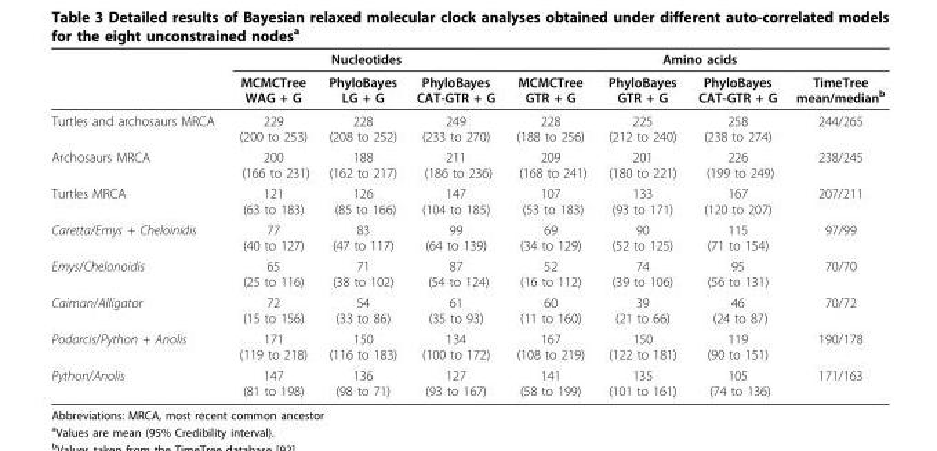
<table><thead><tr><td rowspan="2"></td><td colspan="3">Nucleotides</td><td colspan="4">Amino acids</td></tr><tr><td>MCMCTree WAG + G</td><td>PhyloBayes LG + G</td><td>PhyloBayes CAT-GTR + G</td><td>MCMCTree GTR + G</td><td>PhyloBayes GTR + G</td><td>PhyloBayes CAT-GTR + G</td><td>TimeTree mean/median<sup>b</sup></td></tr></thead><tbody><tr><td>Turtles and archosaurs MRCA</td><td>229 (200 to 253)</td><td>228 (208 to 252)</td><td>249 (233 to 270)</td><td>228 (188 to 256)</td><td>225 (212 to 240)</td><td>258 (238 to 274)</td><td>244/265</td></tr><tr><td>Archosaurs MRCA</td><td>200 (166 to 231)</td><td>188 (162 to 217)</td><td>211 (186 to 236)</td><td>209 (168 to 241)</td><td>201 (180 to 221)</td><td>226 (199 to 249)</td><td>238/245</td></tr><tr><td>Turtles MRCA</td><td>121 (63 to 183)</td><td>126 (85 to 166)</td><td>147 (104 to 185)</td><td>107 (53 to 183)</td><td>133 (93 to 171)</td><td>167 (120 to 207)</td><td>207/211</td></tr><tr><td>Caretta/Emys + Cheloinidis</td><td>77 (40 to 127)</td><td>83 (47 to 117)</td><td>99 (64 to 139)</td><td>69 (34 to 129)</td><td>90 (52 to 125)</td><td>115 (71 to 154)</td><td>97/99</td></tr><tr><td>Emys/Chelonoidis</td><td>65 (25 to 116)</td><td>71 (38 to 102)</td><td>87 (54 to 124)</td><td>52 (16 to 112)</td><td>74 (39 to 106)</td><td>95 (56 to 131)</td><td>70/70</td></tr><tr><td>Caiman/Alligator</td><td>72 (15 to 156)</td><td>54 (33 to 86)</td><td>61 (35 to 93)</td><td>60 (11 to 160)</td><td>39 (21 to 66)</td><td>46 (24 to 87)</td><td>70/72</td></tr><tr><td>Podarcis/Python + Anolis</td><td>171 (119 to 218)</td><td>150 (116 to 183)</td><td>134 (100 to 172)</td><td>167 (108 to 219)</td><td>150 (122 to 181)</td><td>119 (90 to 151)</td><td>190/178</td></tr><tr><td>Python/Anolis</td><td>147 (81 to 198)</td><td>136 (98 to 71)</td><td>127 (93 to 167)</td><td>141 (58 to 199)</td><td>135 (101 to 161)</td><td>105 (74 to 136)</td><td>171/163</td></tr></tbody></table>